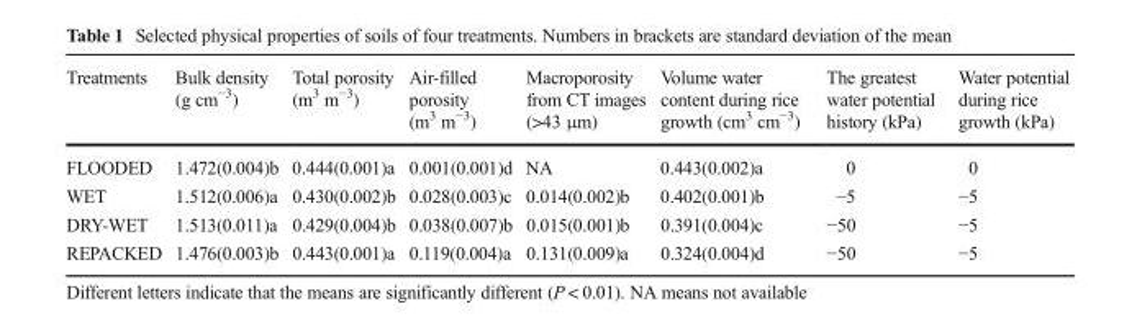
<table><thead><tr><td>Treatments</td><td>Bulk density (g cm<sup>−3</sup>)</td><td>Total porosity (m<sup>3</sup> m<sup>−3</sup>)</td><td>Air-filled porosity (m<sup>3</sup> m<sup>−3</sup>)</td><td>Macroporosity from CT images (&gt;43 μm)</td><td>Volume water content during rice growth (cm<sup>3</sup> cm<sup>−3</sup>)</td><td>The greatest water potential history (kPa)</td><td>Water potential during rice growth (kPa)</td></tr></thead><tbody><tr><td>FLOODED</td><td>1.472(0.004)b</td><td>0.444(0.001)a</td><td>0.001(0.001)d</td><td>NA</td><td>0.443(0.002)a</td><td>0</td><td>0</td></tr><tr><td>WET</td><td>1.512(0.006)a</td><td>0.430(0.002)b</td><td>0.028(0.003)c</td><td>0.014(0.002)b</td><td>0.402(0.001)b</td><td>−5</td><td>−5</td></tr><tr><td>DRY-WET</td><td>1.513(0.011)a</td><td>0.429(0.004)b</td><td>0.038(0.007)b</td><td>0.015(0.001)b</td><td>0.391(0.004)c</td><td>−50</td><td>−5</td></tr><tr><td>REPACKED</td><td>1.476(0.003)b</td><td>0.443(0.001)a</td><td>0.119(0.004)a</td><td>0.131(0.009)a</td><td>0.324(0.004)d</td><td>−50</td><td>−5</td></tr></tbody></table>